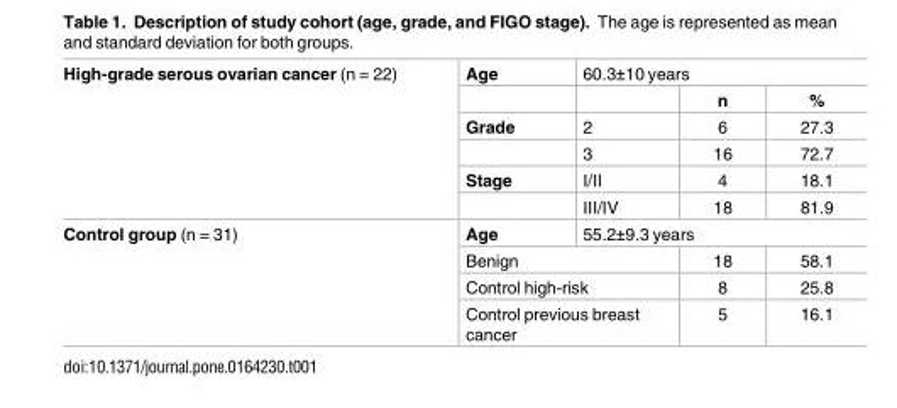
<table><tbody><tr><td rowspan="6">High-grade serous ovarian cancer (n = 22)</td><td>Age</td><td colspan="3">60.3±10 years</td></tr><tr><td></td><td></td><td>n</td><td>%</td></tr><tr><td>Grade</td><td>2</td><td>6</td><td>27.3</td></tr><tr><td></td><td>3</td><td>16</td><td>72.7</td></tr><tr><td>Stage</td><td>I/II</td><td>4</td><td>18.1</td></tr><tr><td></td><td>III/IV</td><td>18</td><td>81.9</td></tr><tr><td rowspan="4">Control group (n = 31)</td><td>Age</td><td colspan="3">55.2±9.3 years</td></tr><tr><td colspan="2">Benign</td><td>18</td><td>58.1</td></tr><tr><td colspan="2">Control high-risk</td><td>8</td><td>25.8</td></tr><tr><td colspan="2">Control previous breast cancer</td><td>5</td><td>16.1</td></tr></tbody></table>